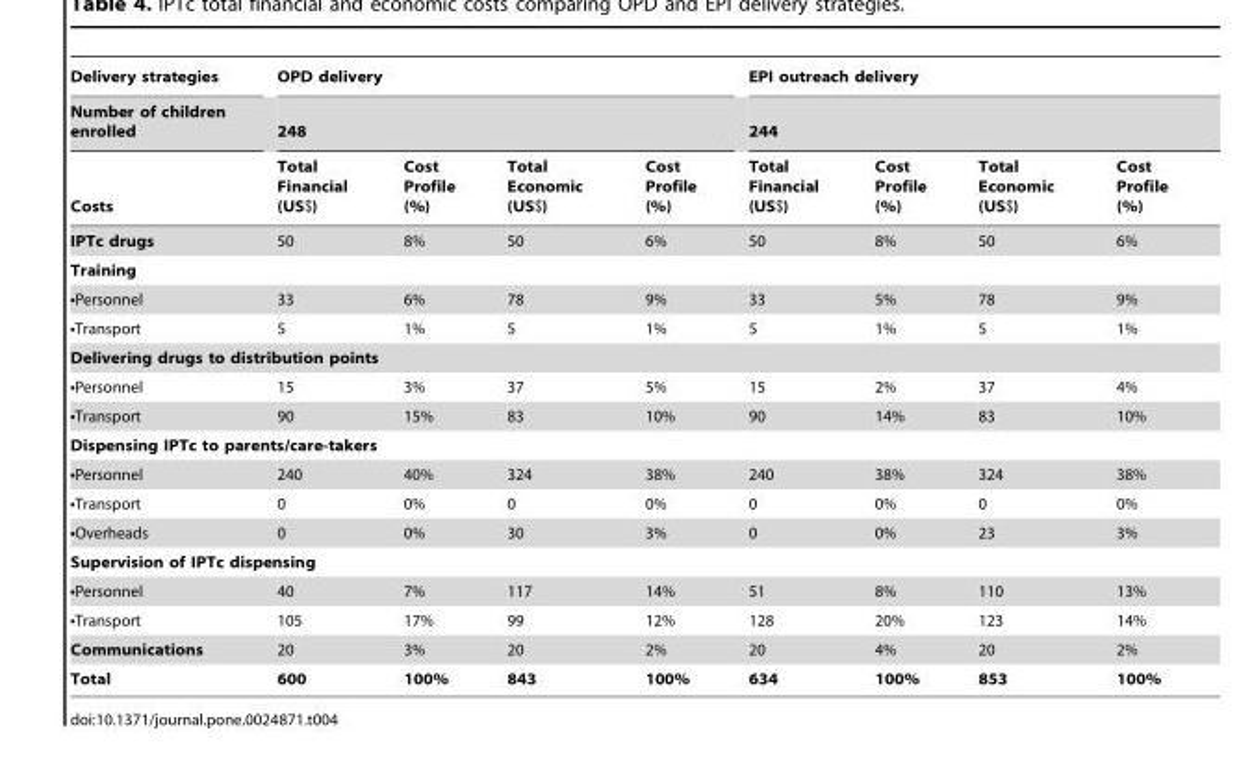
<table><thead><tr><td rowspan="3">Delivery strategies Number of children enrolled Costs</td><td rowspan="2" colspan="4">OPD delivery 248</td><td rowspan="2" colspan="4">EPI outreach delivery 244</td></tr><tr></tr><tr><td>Total Financial (US$)</td><td>Cost Profile (%)</td><td>Total Economic (US$)</td><td>Cost Profile (%)</td><td>Total Financial (US$)</td><td>Cost Profile (%)</td><td>Total Economic (US$)</td><td>Cost Profile (%)</td></tr></thead><tbody><tr><td>IPTc drugs</td><td>50</td><td>8%</td><td>50</td><td>6%</td><td>50</td><td>8%</td><td>50</td><td>6%</td></tr><tr><td colspan="9">Training</td></tr><tr><td>•Personnel</td><td>33</td><td>6%</td><td>78</td><td>9%</td><td>33</td><td>5%</td><td>78</td><td>9%</td></tr><tr><td>•Transport</td><td>5</td><td>1%</td><td>5</td><td>1%</td><td>5</td><td>1%</td><td>5</td><td>1%</td></tr><tr><td colspan="9">Delivering drugs to distribution points</td></tr><tr><td>•Personnel</td><td>15</td><td>3%</td><td>37</td><td>5%</td><td>15</td><td>2%</td><td>37</td><td>4%</td></tr><tr><td>•Transport</td><td>90</td><td>15%</td><td>83</td><td>10%</td><td>90</td><td>14%</td><td>83</td><td>10%</td></tr><tr><td colspan="9">Dispensing IPTc to parents/care-takers</td></tr><tr><td>•Personnel</td><td>240</td><td>40%</td><td>324</td><td>38%</td><td>240</td><td>38%</td><td>324</td><td>38%</td></tr><tr><td>•Transport</td><td>0</td><td>0%</td><td>0</td><td>0%</td><td>0</td><td>0%</td><td>0</td><td>0%</td></tr><tr><td>•Overheads</td><td>0</td><td>0%</td><td>30</td><td>3%</td><td>0</td><td>0%</td><td>23</td><td>3%</td></tr><tr><td colspan="9">Supervision of IPTc dispensing</td></tr><tr><td>•Personnel</td><td>40</td><td>7%</td><td>117</td><td>14%</td><td>51</td><td>8%</td><td>110</td><td>13%</td></tr><tr><td>•Transport</td><td>105</td><td>17%</td><td>99</td><td>12%</td><td>128</td><td>20%</td><td>123</td><td>14%</td></tr><tr><td>Communications</td><td>20</td><td>3%</td><td>20</td><td>2%</td><td>20</td><td>4%</td><td>20</td><td>2%</td></tr><tr><td>Total</td><td>600</td><td>100%</td><td>843</td><td>100%</td><td>634</td><td>100%</td><td>853</td><td>100%</td></tr></tbody></table>